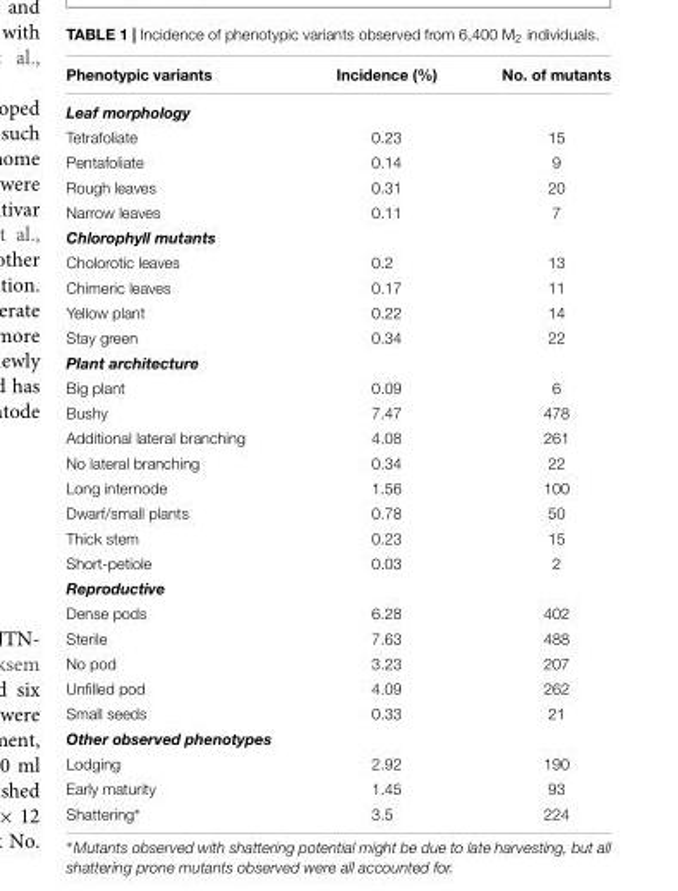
<table><thead><tr><td>Phenotypic variants</td><td>Incidence (%)</td><td>No. of mutants</td></tr></thead><tbody><tr><td colspan="3">Leaf morphology</td></tr><tr><td>Tetrafoliate</td><td>0.23</td><td>15</td></tr><tr><td>Pentafoliate</td><td>0.14</td><td>9</td></tr><tr><td>Rough leaves</td><td>0.31</td><td>20</td></tr><tr><td>Narrow leaves</td><td>0.11</td><td>7</td></tr><tr><td colspan="3">Chlorophyll mutants</td></tr><tr><td>Cholorotic leaves</td><td>0.2</td><td>13</td></tr><tr><td>Chimeric leaves</td><td>0.17</td><td>11</td></tr><tr><td>Yellow plant</td><td>0.22</td><td>14</td></tr><tr><td>Stay green</td><td>0.34</td><td>22</td></tr><tr><td colspan="3">Plant architecture</td></tr><tr><td>Big plant</td><td>0.09</td><td>6</td></tr><tr><td>Bushy</td><td>7.47</td><td>478</td></tr><tr><td>Additional lateral branching</td><td>4.08</td><td>261</td></tr><tr><td>No lateral branching</td><td>0.34</td><td>22</td></tr><tr><td>Long internode</td><td>1.56</td><td>100</td></tr><tr><td>Dwarf/small plants</td><td>0.78</td><td>50</td></tr><tr><td>Thick stem</td><td>0.23</td><td>15</td></tr><tr><td>Short-petiole</td><td>0.03</td><td>2</td></tr><tr><td colspan="3">Reproductive</td></tr><tr><td>Dense pods</td><td>6.28</td><td>402</td></tr><tr><td>Sterile</td><td>7.63</td><td>488</td></tr><tr><td>No pod</td><td>3.23</td><td>207</td></tr><tr><td>Unfilled pod</td><td>4.09</td><td>262</td></tr><tr><td>Small seeds</td><td>0.33</td><td>21</td></tr><tr><td colspan="3">Other observed phenotypes</td></tr><tr><td>Lodging</td><td>2.92</td><td>190</td></tr><tr><td>Early maturity</td><td>1.45</td><td>93</td></tr><tr><td>Shattering∗</td><td>3.5</td><td>224</td></tr></tbody></table>